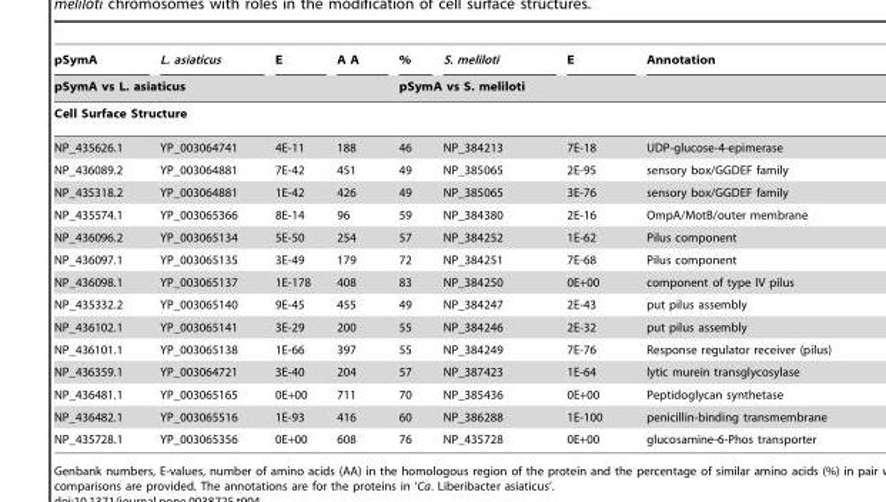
<table><thead><tr><td>pSymA</td><td>L. asiaticus</td><td>E</td><td>A A</td><td>%</td><td>S. meliloti</td><td>E</td><td>Annotation</td></tr><tr><td colspan="4">pSymA vs L. asiaticus</td><td colspan="4">pSymA vs S. meliloti</td></tr></thead><tbody><tr><td colspan="8">Cell Surface Structure</td></tr><tr><td>NP_435626.1</td><td>YP_003064741</td><td>4E-11</td><td>188</td><td>46</td><td>NP_384213</td><td>7E-18</td><td>UDP-glucose-4-epimerase</td></tr><tr><td>NP_436089.2</td><td>YP_003064881</td><td>7E-42</td><td>451</td><td>49</td><td>NP_385065</td><td>2E-95</td><td>sensory box/GGDEF family</td></tr><tr><td>NP_435318.2</td><td>YP_003064881</td><td>1E-42</td><td>426</td><td>49</td><td>NP_385065</td><td>3E-76</td><td>sensory box/GGDEF family</td></tr><tr><td>NP_435574.1</td><td>YP_003065366</td><td>8E-14</td><td>96</td><td>59</td><td>NP_384380</td><td>2E-16</td><td>OmpA/MotB/outer membrane</td></tr><tr><td>NP_436096.2</td><td>YP_003065134</td><td>5E-50</td><td>254</td><td>57</td><td>NP_384252</td><td>1E-62</td><td>Pilus component</td></tr><tr><td>NP_436097.1</td><td>YP_003065135</td><td>3E-49</td><td>179</td><td>72</td><td>NP_384251</td><td>7E-68</td><td>Pilus component</td></tr><tr><td>NP_436098.1</td><td>YP_003065137</td><td>1E-178</td><td>408</td><td>83</td><td>NP_384250</td><td>0E+00</td><td>component of type IV pilus</td></tr><tr><td>NP_435332.2</td><td>YP_003065140</td><td>9E-45</td><td>455</td><td>49</td><td>NP_384247</td><td>2E-43</td><td>put pilus assembly</td></tr><tr><td>NP_436102.1</td><td>YP_003065141</td><td>3E-29</td><td>200</td><td>55</td><td>NP_384246</td><td>2E-32</td><td>put pilus assembly</td></tr><tr><td>NP_436101.1</td><td>YP_003065138</td><td>1E-66</td><td>397</td><td>55</td><td>NP_384249</td><td>7E-76</td><td>Response regulator receiver (pilus)</td></tr><tr><td>NP_436359.1</td><td>YP_003064721</td><td>3E-40</td><td>204</td><td>57</td><td>NP_387423</td><td>1E-64</td><td>lytic murein transglycosylase</td></tr><tr><td>NP_436481.1</td><td>YP_003065165</td><td>0E+00</td><td>711</td><td>70</td><td>NP_385436</td><td>0E+00</td><td>Peptidoglycan synthetase</td></tr><tr><td>NP_436482.1</td><td>YP_003065516</td><td>1E-93</td><td>416</td><td>60</td><td>NP_386288</td><td>1E-100</td><td>penicillin-binding transmembrane</td></tr><tr><td>NP_435728.1</td><td>YP_003065356</td><td>0E+00</td><td>608</td><td>76</td><td>NP_435728</td><td>0E+00</td><td>glucosamine-6-Phos transporter</td></tr></tbody></table>